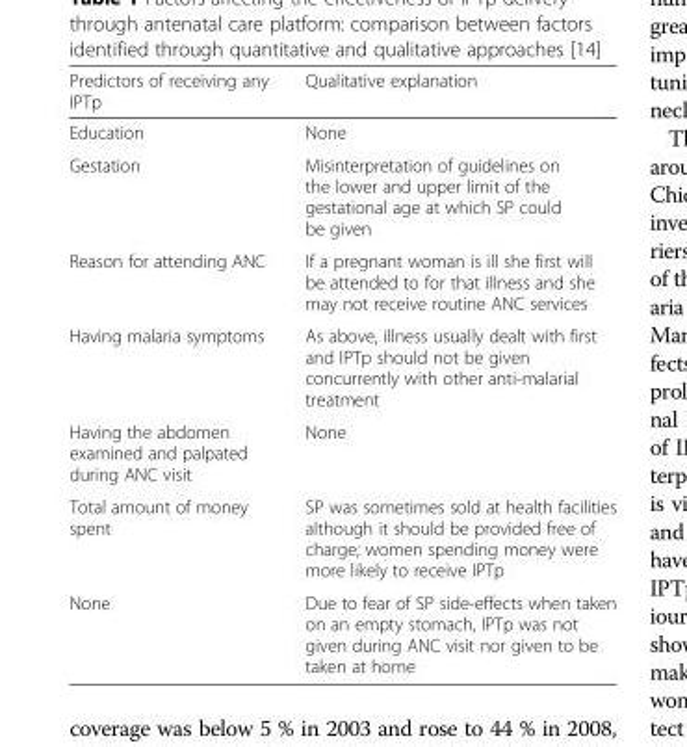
<table><thead><tr><td>Predictors of receiving any IPTp</td><td>Qualitative explanation</td></tr></thead><tbody><tr><td>Education</td><td>None</td></tr><tr><td>Gestation</td><td>Misinterpretation of guidelines on the lower and upper limit of the gestational age at which SP could be given</td></tr><tr><td>Reason for attending ANC</td><td>If a pregnant woman is ill she first will be attended to for that illness and she may not receive routine ANC services</td></tr><tr><td>Having malaria symptoms</td><td>As above, illness usually dealt with first and IPTp should not be given concurrently with other anti-malarial treatment</td></tr><tr><td>Having the abdomen examined and palpated during ANC visit</td><td>None</td></tr><tr><td>Total amount of money spent</td><td>SP was sometimes sold at health facilities although it should be provided free of charge; women spending money were more likely to receive IPTp</td></tr><tr><td>None</td><td>Due to fear of SP side-effects when taken on an empty stomach, IPTp was not given during ANC visit nor given to be taken at home</td></tr></tbody></table>